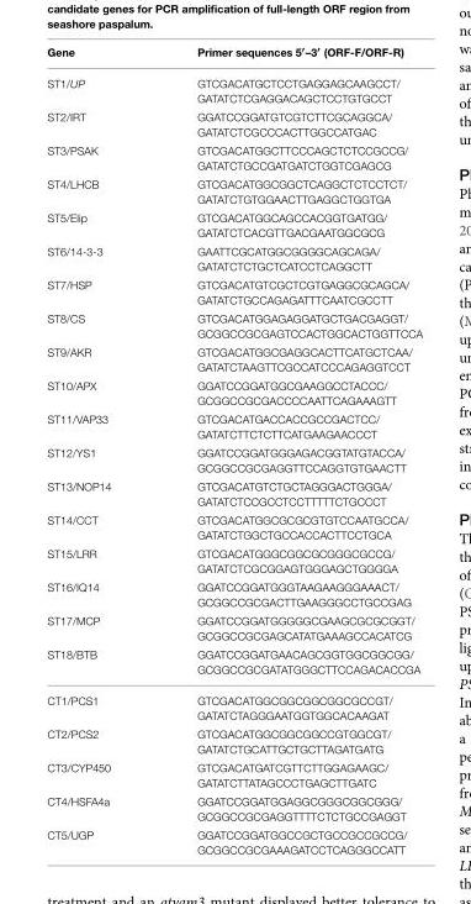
<table><thead><tr><td>Gene</td><td>Primer sequences 5′–3′ (ORF-F/ORF-R)</td></tr></thead><tbody><tr><td>ST1/UP</td><td>GTCGACATGCTCCTGAGGAGCAAGCCT/ GATATCTCGAGGACAGCTCCTGTGCCT</td></tr><tr><td>ST2/IRT</td><td>GGATCCGGATGTCGTCTTCGCAGGCA/ GATATCTCGCCCACTTGGCCATGAC</td></tr><tr><td>ST3/PSAK</td><td>GTCGACATGGCTTCCCAGCTCTCCGCCG/ GATATCTGCCGATGATCTGGTCGAGCG</td></tr><tr><td>ST4/LHCB</td><td>GTCGACATGGCGGCTCAGGCTCTCCTCT/ GATATCTGTGGAACTTGAGGCTGGTGA</td></tr><tr><td>ST5/Elip</td><td>GTCGACATGGCAGCCACGGTGATGG/ GATATCTCACGTTGACGAATGGCGCG</td></tr><tr><td>ST6/14-3-3</td><td>GAATTCGCATGGCGGGGCAGCAGA/ GATATCTCTGCTCATCCTCAGGCTT</td></tr><tr><td>ST7/HSP</td><td>GTCGACATGTCGCTCGTGAGGCGCAGCA/ GATATCTGCCAGAGATTTCAATCGCCTT</td></tr><tr><td>ST8/CS</td><td>GTCGACATGGAGAGGATGCTGACGAGGT/ GCGGCCGCGAGTCCACTGGCACTGGTTCCA</td></tr><tr><td>ST9/AKR</td><td>GTCGACATGGCGAGGCACTTCATGCTCAA/ GATATCTAAGTTCGCCATCCCAGAGGTCCT</td></tr><tr><td>ST10/APX</td><td>GGATCCGGATGGCGAAGGCCTACCC/ GCGGCCGCGACCCCAATTCAGAAAGTT</td></tr><tr><td>ST11/VAP33</td><td>GTCGACATGACCACCGCCGACTCC/ GATATCTTCTCTTCATGAAGAACCCT</td></tr><tr><td>ST12/YS1</td><td>GGATCCGGATGGGAGACGGTATGTACCA/ GCGGCCGCGAGGTTCCAGGTGTGAACTT</td></tr><tr><td>ST13/NOP14</td><td>GTCGACATGTCTGCTAGGGACTGGGA/ GATATCTCCGCCTCCTTTTTCTGCCCT</td></tr><tr><td>ST14/CCT</td><td>GTCGACATGGCGCGCGTGTCCAATGCCA/ GATATCTGGCTGCCACCACTTCCTGCA</td></tr><tr><td>ST15/LRR</td><td>GTCGACATGGGCGGCGCGGGCGCCG/ GATATCTCGCGGAGTGGGAGCTGGGGA</td></tr><tr><td>ST16/IQ14</td><td>GGATCCGGATGGGTAAGAAGGGAAACT/ GCGGCCGCGACTTGAAGGGCCTGCCGAG</td></tr><tr><td>ST17/MCP</td><td>GGATCCGGATGGGGGCGAAGCGCGCGGT/ GCGGCCGCGAGCATATGAAAGCCACATCG</td></tr><tr><td>ST18/BTB</td><td>GGATCCGGATGAACAGCGGTGGCGGCGG/ GCGGCCGCGATATGGGCTTCCAGACACCGA</td></tr><tr><td>CT1/PCS1</td><td>GTCGACATGGCGGCGGCGGCGCCGT/ GATATCTAGGGAATGGTGGCACAAGAT</td></tr><tr><td>CT2/PCS2</td><td>GTCGACATGGCGGCGGCCGTGGCGT/ GATATCTGCATTGCTGCTTAGATGATG</td></tr><tr><td>CT3/CYP450</td><td>GTCGACATGATCGTTCTTGGAGAAGC/ GATATCTTATAGCCCTGAGCTTGATC</td></tr><tr><td>CT4/HSFA4a</td><td>GGATCCGGATGGAGGCGGGCGGCGGG/ GCGGCCGCGAGGTTTTCTCTGCCGAGGT</td></tr><tr><td>CT5/UGP</td><td>GGATCCGGATGGCCGCTGCCGCCGCCG/ GCGGCCGCGAAAGATCCTCAGGGCCATT</td></tr></tbody></table>